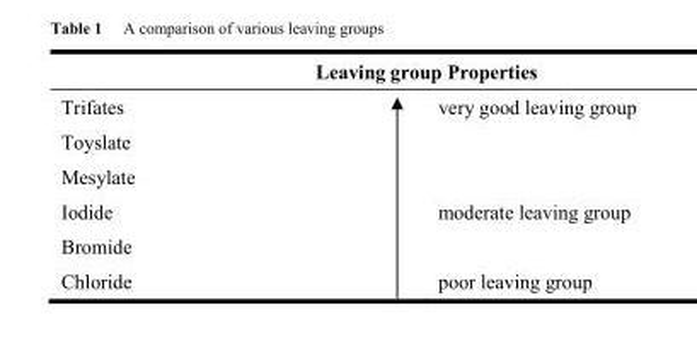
<table><thead><tr><td colspan="2">Leaving group Properties</td></tr><tr><td>Trifates</td><td>very good leaving group</td></tr></thead><tbody><tr><td colspan="2">Toyslate</td></tr><tr><td colspan="2">Mesylate</td></tr><tr><td>Iodide</td><td>moderate leaving group</td></tr><tr><td colspan="2">Bromide</td></tr><tr><td>Chloride</td><td>poor leaving group</td></tr></tbody></table>